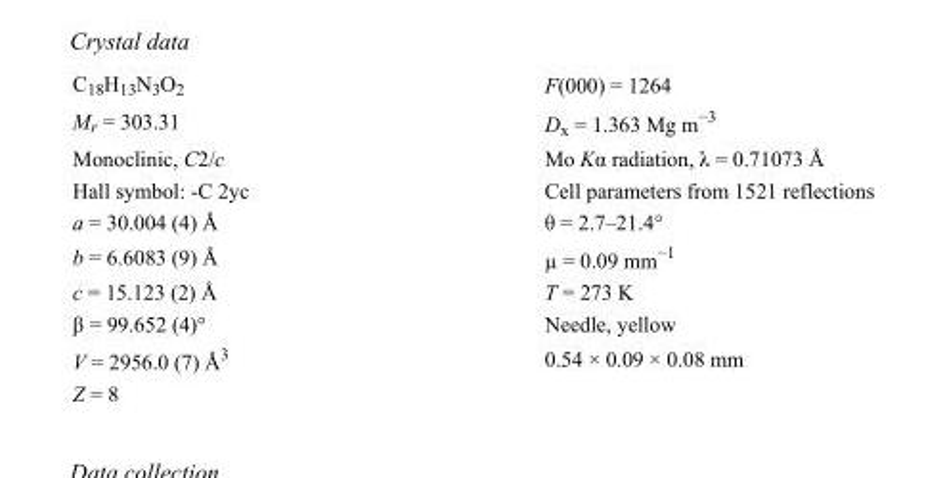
<table><tbody><tr><td>C<sub>18</sub>H<sub>13</sub>N<sub>3</sub>O<sub>2</sub></td><td>F(000) = 1264</td></tr><tr><td>M<sub>r</sub> = 303.31</td><td>D<sub>x</sub> = 1.363 Mg m<sup>−3</sup></td></tr><tr><td>Monoclinic, C2/c</td><td>Mo Kα radiation, λ = 0.71073 Å</td></tr><tr><td>Hall symbol: -C 2yc</td><td>Cell parameters from 1521 reflections</td></tr><tr><td>a = 30.004 (4) Å</td><td>θ = 2.7–21.4°</td></tr><tr><td>b = 6.6083 (9) Å</td><td>µ = 0.09 mm<sup>−1</sup></td></tr><tr><td>c = 15.123 (2) Å</td><td>T = 273 K</td></tr><tr><td>β = 99.652 (4)°</td><td>Needle, yellow</td></tr><tr><td>V = 2956.0 (7) Å<sup>3</sup></td><td>0.54 × 0.09 × 0.08 mm</td></tr><tr><td>Z = 8</td><td></td></tr></tbody></table>